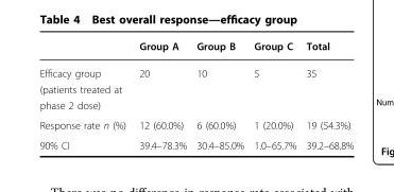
<table><thead><tr><td></td><td>Group A</td><td>Group B</td><td>Group C</td><td>Total</td></tr></thead><tbody><tr><td>Efficacy group (patients treated at phase 2 dose)</td><td>20</td><td>10</td><td>5</td><td>35</td></tr><tr><td>Response rate n (%)</td><td>12 (60.0%)</td><td>6 (60.0%)</td><td>1 (20.0%)</td><td>19 (54.3%)</td></tr><tr><td>90% CI</td><td>39.4–78.3%</td><td>30.4–85.0%</td><td>1.0–65.7%</td><td>39.2–68.8%</td></tr></tbody></table>